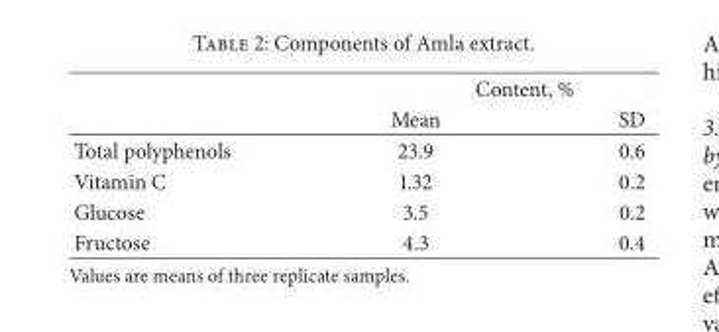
<table><thead><tr><td rowspan="2"></td><td colspan="2">Content, %</td></tr><tr><td>Mean</td><td>SD</td></tr></thead><tbody><tr><td>Total polyphenols</td><td>23.9</td><td>0.6</td></tr><tr><td>Vitamin C</td><td>1.32</td><td>0.2</td></tr><tr><td>Glucose</td><td>3.5</td><td>0.2</td></tr><tr><td>Fructose</td><td>4.3</td><td>0.4</td></tr></tbody></table>